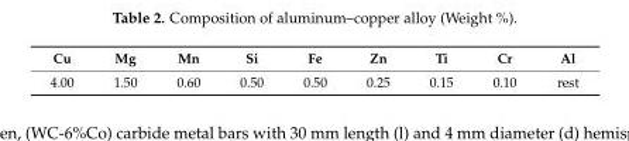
<table><thead><tr><td>Cu</td><td>Mg</td><td>Mn</td><td>Si</td><td>Fe</td><td>Zn</td><td>Ti</td><td>Cr</td><td>Al</td></tr></thead><tbody><tr><td>4.00</td><td>1.50</td><td>0.60</td><td>0.50</td><td>0.50</td><td>0.25</td><td>0.15</td><td>0.10</td><td>rest</td></tr></tbody></table>